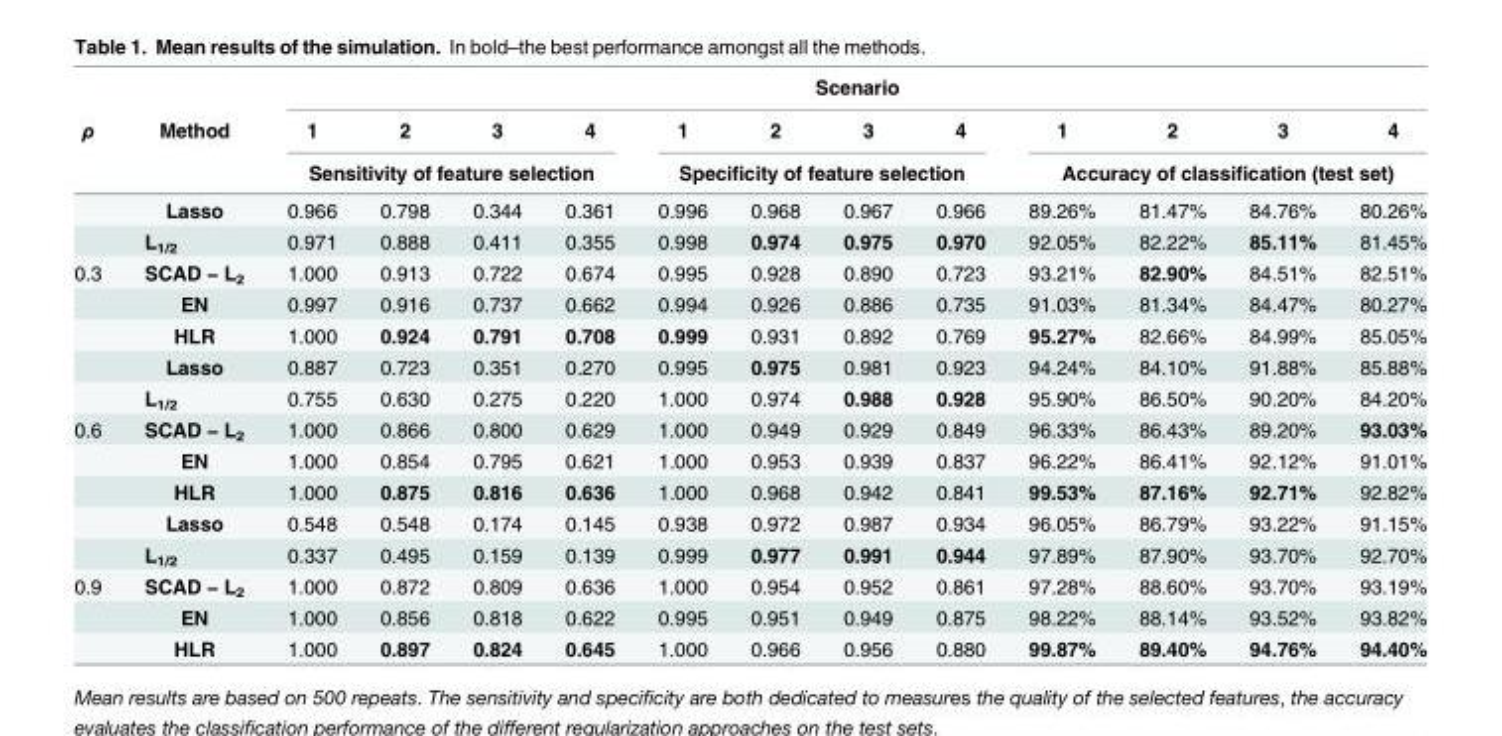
<table><thead><tr><td rowspan="3">ρ</td><td rowspan="3">Method</td><td colspan="12">Scenario</td></tr><tr><td>1</td><td>2</td><td>3</td><td>4</td><td>1</td><td>2</td><td>3</td><td>4</td><td>1</td><td>2</td><td>3</td><td>4</td></tr><tr><td colspan="4">Sensitivity of feature selection</td><td colspan="4">Specificity of feature selection</td><td colspan="4">Accuracy of classification (test set)</td></tr></thead><tbody><tr><td></td><td>Lasso</td><td>0.966</td><td>0.798</td><td>0.344</td><td>0.361</td><td>0.996</td><td>0.968</td><td>0.967</td><td>0.966</td><td>89.26%</td><td>81.47%</td><td>84.76%</td><td>80.26%</td></tr><tr><td></td><td>L<sub>1/2</sub></td><td>0.971</td><td>0.888</td><td>0.411</td><td>0.355</td><td>0.998</td><td>0.974</td><td>0.975</td><td>0.970</td><td>92.05%</td><td>82.22%</td><td>85.11%</td><td>81.45%</td></tr><tr><td rowspan="5">0.3</td><td>SCAD − L<sub>2</sub></td><td>1.000</td><td>0.913</td><td>0.722</td><td>0.674</td><td>0.995</td><td>0.928</td><td>0.890</td><td>0.723</td><td>93.21%</td><td>82.90%</td><td>84.51%</td><td>82.51%</td></tr><tr><td>EN</td><td>0.997</td><td>0.916</td><td>0.737</td><td>0.662</td><td>0.994</td><td>0.926</td><td>0.886</td><td>0.735</td><td>91.03%</td><td>81.34%</td><td>84.47%</td><td>80.27%</td></tr><tr><td>HLR</td><td>1.000</td><td>0.924</td><td>0.791</td><td>0.708</td><td>0.999</td><td>0.931</td><td>0.892</td><td>0.769</td><td>95.27%</td><td>82.66%</td><td>84.99%</td><td>85.05%</td></tr><tr><td>Lasso</td><td>0.887</td><td>0.723</td><td>0.351</td><td>0.270</td><td>0.995</td><td>0.975</td><td>0.981</td><td>0.923</td><td>94.24%</td><td>84.10%</td><td>91.88%</td><td>85.88%</td></tr><tr><td>L<sub>1/2</sub></td><td>0.755</td><td>0.630</td><td>0.275</td><td>0.220</td><td>1.000</td><td>0.974</td><td>0.988</td><td>0.928</td><td>95.90%</td><td>86.50%</td><td>90.20%</td><td>84.20%</td></tr><tr><td rowspan="5">0.6</td><td>SCAD − L<sub>2</sub></td><td>1.000</td><td>0.866</td><td>0.800</td><td>0.629</td><td>1.000</td><td>0.949</td><td>0.929</td><td>0.849</td><td>96.33%</td><td>86.43%</td><td>89.20%</td><td>93.03%</td></tr><tr><td>EN</td><td>1.000</td><td>0.854</td><td>0.795</td><td>0.621</td><td>1.000</td><td>0.953</td><td>0.939</td><td>0.837</td><td>96.22%</td><td>86.41%</td><td>92.12%</td><td>91.01%</td></tr><tr><td>HLR</td><td>1.000</td><td>0.875</td><td>0.816</td><td>0.636</td><td>1.000</td><td>0.968</td><td>0.942</td><td>0.841</td><td>99.53%</td><td>87.16%</td><td>92.71%</td><td>92.82%</td></tr><tr><td>Lasso</td><td>0.548</td><td>0.548</td><td>0.174</td><td>0.145</td><td>0.938</td><td>0.972</td><td>0.987</td><td>0.934</td><td>96.05%</td><td>86.79%</td><td>93.22%</td><td>91.15%</td></tr><tr><td>L<sub>1/2</sub></td><td>0.337</td><td>0.495</td><td>0.159</td><td>0.139</td><td>0.999</td><td>0.977</td><td>0.991</td><td>0.944</td><td>97.89%</td><td>87.90%</td><td>93.70%</td><td>92.70%</td></tr><tr><td rowspan="3">0.9</td><td>SCAD − L<sub>2</sub></td><td>1.000</td><td>0.872</td><td>0.809</td><td>0.636</td><td>1.000</td><td>0.954</td><td>0.952</td><td>0.861</td><td>97.28%</td><td>88.60%</td><td>93.70%</td><td>93.19%</td></tr><tr><td>EN</td><td>1.000</td><td>0.856</td><td>0.818</td><td>0.622</td><td>0.995</td><td>0.951</td><td>0.949</td><td>0.875</td><td>98.22%</td><td>88.14%</td><td>93.52%</td><td>93.82%</td></tr><tr><td>HLR</td><td>1.000</td><td>0.897</td><td>0.824</td><td>0.645</td><td>1.000</td><td>0.966</td><td>0.956</td><td>0.880</td><td>99.87%</td><td>89.40%</td><td>94.76%</td><td>94.40%</td></tr></tbody></table>